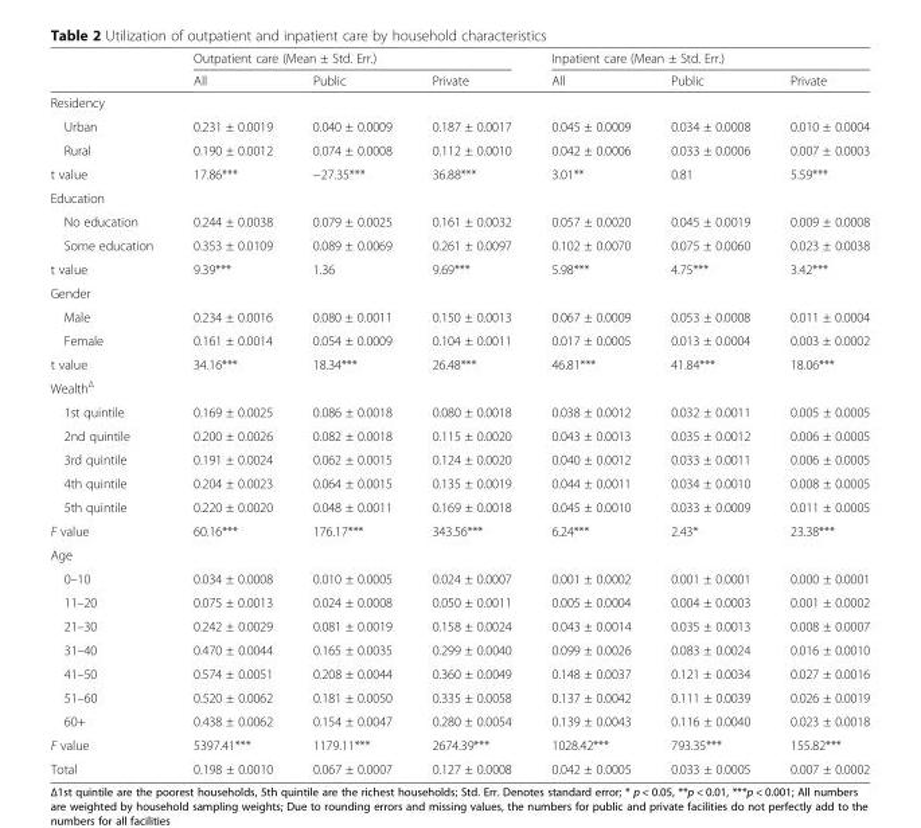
<table><thead><tr><td rowspan="2"></td><td colspan="3">Outpatient care (Mean ± Std. Err.)</td><td colspan="3">Inpatient care (Mean ± Std. Err.)</td></tr><tr><td>All</td><td>Public</td><td>Private</td><td>All</td><td>Public</td><td>Private</td></tr></thead><tbody><tr><td colspan="7">Residency</td></tr><tr><td>Urban</td><td>0.231 ± 0.0019</td><td>0.040 ± 0.0009</td><td>0.187 ± 0.0017</td><td>0.045 ± 0.0009</td><td>0.034 ± 0.0008</td><td>0.010 ± 0.0004</td></tr><tr><td>Rural</td><td>0.190 ± 0.0012</td><td>0.074 ± 0.0008</td><td>0.112 ± 0.0010</td><td>0.042 ± 0.0006</td><td>0.033 ± 0.0006</td><td>0.007 ± 0.0003</td></tr><tr><td>t value</td><td>17.86***</td><td>−27.35***</td><td>36.88***</td><td>3.01**</td><td>0.81</td><td>5.59***</td></tr><tr><td colspan="7">Education</td></tr><tr><td>No education</td><td>0.244 ± 0.0038</td><td>0.079 ± 0.0025</td><td>0.161 ± 0.0032</td><td>0.057 ± 0.0020</td><td>0.045 ± 0.0019</td><td>0.009 ± 0.0008</td></tr><tr><td>Some education</td><td>0.353 ± 0.0109</td><td>0.089 ± 0.0069</td><td>0.261 ± 0.0097</td><td>0.102 ± 0.0070</td><td>0.075 ± 0.0060</td><td>0.023 ± 0.0038</td></tr><tr><td>t value</td><td>9.39***</td><td>1.36</td><td>9.69***</td><td>5.98***</td><td>4.75***</td><td>3.42***</td></tr><tr><td colspan="7">Gender</td></tr><tr><td>Male</td><td>0.234 ± 0.0016</td><td>0.080 ± 0.0011</td><td>0.150 ± 0.0013</td><td>0.067 ± 0.0009</td><td>0.053 ± 0.0008</td><td>0.011 ± 0.0004</td></tr><tr><td>Female</td><td>0.161 ± 0.0014</td><td>0.054 ± 0.0009</td><td>0.104 ± 0.0011</td><td>0.017 ± 0.0005</td><td>0.013 ± 0.0004</td><td>0.003 ± 0.0002</td></tr><tr><td>t value</td><td>34.16***</td><td>18.34***</td><td>26.48***</td><td>46.81***</td><td>41.84***</td><td>18.06***</td></tr><tr><td colspan="7">WealthΔ</td></tr><tr><td>1st quintile</td><td>0.169 ± 0.0025</td><td>0.086 ± 0.0018</td><td>0.080 ± 0.0018</td><td>0.038 ± 0.0012</td><td>0.032 ± 0.0011</td><td>0.005 ± 0.0005</td></tr><tr><td>2nd quintile</td><td>0.200 ± 0.0026</td><td>0.082 ± 0.0018</td><td>0.115 ± 0.0020</td><td>0.043 ± 0.0013</td><td>0.035 ± 0.0012</td><td>0.006 ± 0.0005</td></tr><tr><td>3rd quintile</td><td>0.191 ± 0.0024</td><td>0.062 ± 0.0015</td><td>0.124 ± 0.0020</td><td>0.040 ± 0.0012</td><td>0.033 ± 0.0011</td><td>0.006 ± 0.0005</td></tr><tr><td>4th quintile</td><td>0.204 ± 0.0023</td><td>0.064 ± 0.0015</td><td>0.135 ± 0.0019</td><td>0.044 ± 0.0011</td><td>0.034 ± 0.0010</td><td>0.008 ± 0.0005</td></tr><tr><td>5th quintile</td><td>0.220 ± 0.0020</td><td>0.048 ± 0.0011</td><td>0.169 ± 0.0018</td><td>0.045 ± 0.0010</td><td>0.033 ± 0.0009</td><td>0.011 ± 0.0005</td></tr><tr><td>F value</td><td>60.16***</td><td>176.17***</td><td>343.56***</td><td>6.24***</td><td>2.43*</td><td>23.38***</td></tr><tr><td colspan="7">Age</td></tr><tr><td>0–10</td><td>0.034 ± 0.0008</td><td>0.010 ± 0.0005</td><td>0.024 ± 0.0007</td><td>0.001 ± 0.0002</td><td>0.001 ± 0.0001</td><td>0.000 ± 0.0001</td></tr><tr><td>11–20</td><td>0.075 ± 0.0013</td><td>0.024 ± 0.0008</td><td>0.050 ± 0.0011</td><td>0.005 ± 0.0004</td><td>0.004 ± 0.0003</td><td>0.001 ± 0.0002</td></tr><tr><td>21–30</td><td>0.242 ± 0.0029</td><td>0.081 ± 0.0019</td><td>0.158 ± 0.0024</td><td>0.043 ± 0.0014</td><td>0.035 ± 0.0013</td><td>0.008 ± 0.0007</td></tr><tr><td>31–40</td><td>0.470 ± 0.0044</td><td>0.165 ± 0.0035</td><td>0.299 ± 0.0040</td><td>0.099 ± 0.0026</td><td>0.083 ± 0.0024</td><td>0.016 ± 0.0010</td></tr><tr><td>41–50</td><td>0.574 ± 0.0051</td><td>0.208 ± 0.0044</td><td>0.360 ± 0.0049</td><td>0.148 ± 0.0037</td><td>0.121 ± 0.0034</td><td>0.027 ± 0.0016</td></tr><tr><td>51–60</td><td>0.520 ± 0.0062</td><td>0.181 ± 0.0050</td><td>0.335 ± 0.0058</td><td>0.137 ± 0.0042</td><td>0.111 ± 0.0039</td><td>0.026 ± 0.0019</td></tr><tr><td>60+</td><td>0.438 ± 0.0062</td><td>0.154 ± 0.0047</td><td>0.280 ± 0.0054</td><td>0.139 ± 0.0043</td><td>0.116 ± 0.0040</td><td>0.023 ± 0.0018</td></tr><tr><td>F value</td><td>5397.41***</td><td>1179.11***</td><td>2674.39***</td><td>1028.42***</td><td>793.35***</td><td>155.82***</td></tr><tr><td>Total</td><td>0.198 ± 0.0010</td><td>0.067 ± 0.0007</td><td>0.127 ± 0.0008</td><td>0.042 ± 0.0005</td><td>0.033 ± 0.0005</td><td>0.007 ± 0.0002</td></tr></tbody></table>